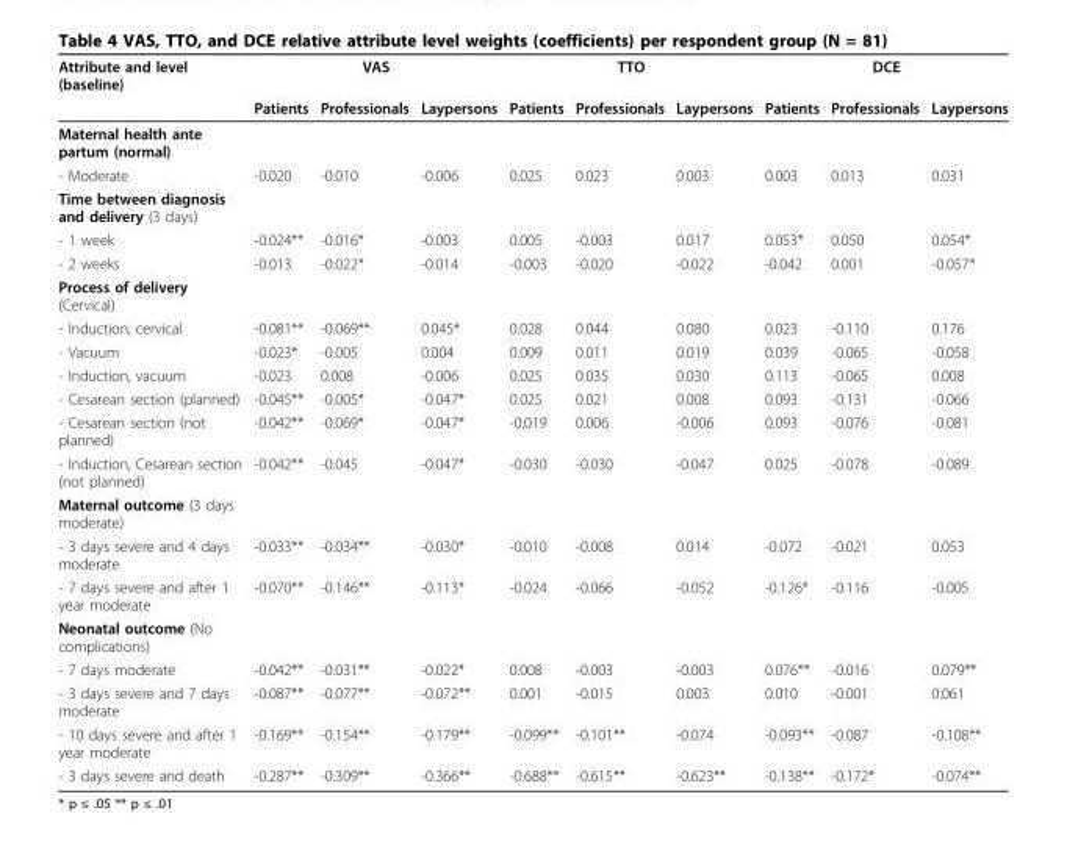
<table><thead><tr><td rowspan="2">Attribute and level (baseline)</td><td colspan="3">VAS</td><td colspan="3">TTO</td><td colspan="3">DCE</td></tr><tr><td>Patients</td><td>Professionals</td><td>Laypersons</td><td>Patients</td><td>Professionals</td><td>Laypersons</td><td>Patients</td><td>Professionals</td><td>Laypersons</td></tr></thead><tbody><tr><td colspan="10">Maternal health ante partum (normal)</td></tr><tr><td>- Moderate</td><td>-0.020</td><td>-0.010</td><td>-0.006</td><td>0.025</td><td>0.023</td><td>0.003</td><td>0.003</td><td>0.013</td><td>0.031</td></tr><tr><td colspan="10">Time between diagnosis and delivery (3 days)</td></tr><tr><td>- 1 week</td><td>-0.024**</td><td>-0.016*</td><td>-0.003</td><td>0.005</td><td>-0.003</td><td>0.017</td><td>0.053*</td><td>0.050</td><td>0.054*</td></tr><tr><td>- 2 weeks</td><td>-0.013</td><td>-0.022*</td><td>-0.014</td><td>-0.003</td><td>-0.020</td><td>-0.022</td><td>-0.042</td><td>0.001</td><td>-0.057*</td></tr><tr><td colspan="10">Process of delivery (Cervical)</td></tr><tr><td>- Induction, cervical</td><td>-0.081**</td><td>-0.069**</td><td>0.045*</td><td>0.028</td><td>0.044</td><td>0.080</td><td>0.023</td><td>-0.110</td><td>0.176</td></tr><tr><td>- Vacuum</td><td>-0.023*</td><td>-0.005</td><td>0.004</td><td>0.009</td><td>0.011</td><td>0.019</td><td>0.039</td><td>-0.065</td><td>-0.058</td></tr><tr><td>- Induction, vacuum</td><td>-0.023</td><td>0.008</td><td>-0.006</td><td>0.025</td><td>0.035</td><td>0.030</td><td>0.113</td><td>-0.065</td><td>0.008</td></tr><tr><td>- Cesarean section (planned)</td><td>-0.045**</td><td>-0.005*</td><td>-0.047*</td><td>0.025</td><td>0.021</td><td>0.008</td><td>0.093</td><td>-0.131</td><td>-0.066</td></tr><tr><td>- Cesarean section (not planned)</td><td>-0.042**</td><td>-0.069*</td><td>-0.047*</td><td>-0.019</td><td>0.006</td><td>-0.006</td><td>0.093</td><td>-0.076</td><td>-0.081</td></tr><tr><td>- Induction, Cesarean section (not planned)</td><td>-0.042**</td><td>-0.045</td><td>-0.047*</td><td>-0.030</td><td>-0.030</td><td>-0.047</td><td>0.025</td><td>-0.078</td><td>-0.089</td></tr><tr><td colspan="10">Maternal outcome (3 days moderate)</td></tr><tr><td>- 3 days severe and 4 days moderate</td><td>-0.033**</td><td>-0.034**</td><td>-0.030*</td><td>-0.010</td><td>-0.008</td><td>0.014</td><td>-0.072</td><td>-0.021</td><td>0.053</td></tr><tr><td>- 7 days severe and after 1 year moderate</td><td>-0.070**</td><td>-0.146**</td><td>-0.113*</td><td>-0.024</td><td>-0.066</td><td>-0.052</td><td>-0.126*</td><td>-0.116</td><td>-0.005</td></tr><tr><td colspan="10">Neonatal outcome (No complications)</td></tr><tr><td>- 7 days moderate</td><td>-0.042**</td><td>-0.031**</td><td>-0.022*</td><td>0.008</td><td>-0.003</td><td>-0.003</td><td>0.076**</td><td>-0.016</td><td>0.079**</td></tr><tr><td>- 3 days severe and 7 days moderate</td><td>-0.087**</td><td>-0.077**</td><td>-0.072**</td><td>0.001</td><td>-0.015</td><td>0.003</td><td>0.010</td><td>-0.001</td><td>0.061</td></tr><tr><td>- 10 days severe and after 1 year moderate</td><td>-0.169**</td><td>-0.154**</td><td>-0.179**</td><td>-0.099**</td><td>-0.101**</td><td>-0.074</td><td>-0.093**</td><td>-0.087</td><td>-0.108**</td></tr><tr><td>- 3 days severe and death</td><td>-0.287**</td><td>-0.309**</td><td>-0.366**</td><td>-0.688**</td><td>-0.615**</td><td>-0.623**</td><td>-0.138**</td><td>-0.172*</td><td>-0.074**</td></tr></tbody></table>